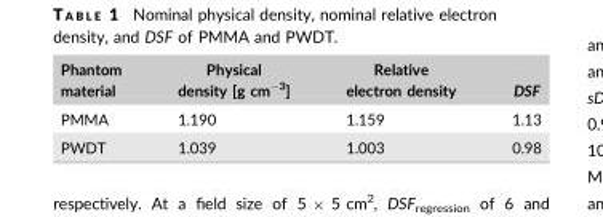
<table><thead><tr><td>Phantom material</td><td>Physical density [g cm<sup>−3</sup>]</td><td>Relative electron density</td><td>DSF</td></tr></thead><tbody><tr><td>PMMA</td><td>1.190</td><td>1.159</td><td>1.13</td></tr><tr><td>PWDT</td><td>1.039</td><td>1.003</td><td>0.98</td></tr></tbody></table>